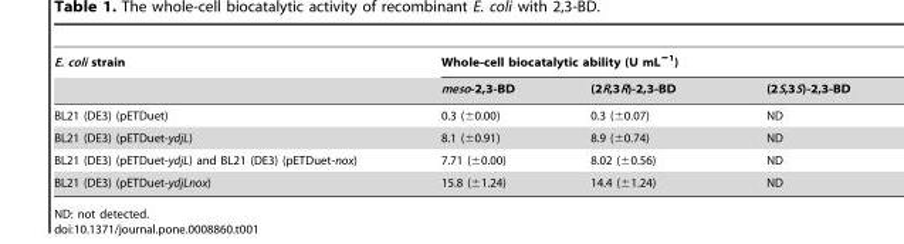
<table><thead><tr><td rowspan="2">E. coli strain</td><td colspan="3">Whole-cell biocatalytic ability (U mL<sup>−1</sup>)</td></tr><tr><td>meso-2,3-BD</td><td>(2R,3R)-2,3-BD</td><td>(2S,3S)-2,3-BD</td></tr></thead><tbody><tr><td>BL21 (DE3) (pETDuet)</td><td>0.3 (±0.00)</td><td>0.3 (±0.07)</td><td>ND</td></tr><tr><td>BL21 (DE3) (pETDuet-ydjL)</td><td>8.1 (±0.91)</td><td>8.9 (±0.74)</td><td>ND</td></tr><tr><td>BL21 (DE3) (pETDuet-ydjL) and BL21 (DE3) (pETDuet-nox)</td><td>7.71 (±0.00)</td><td>8.02 (±0.56)</td><td>ND</td></tr><tr><td>BL21 (DE3) (pETDuet-ydjLnox)</td><td>15.8 (±1.24)</td><td>14.4 (±1.24)</td><td>ND</td></tr></tbody></table>